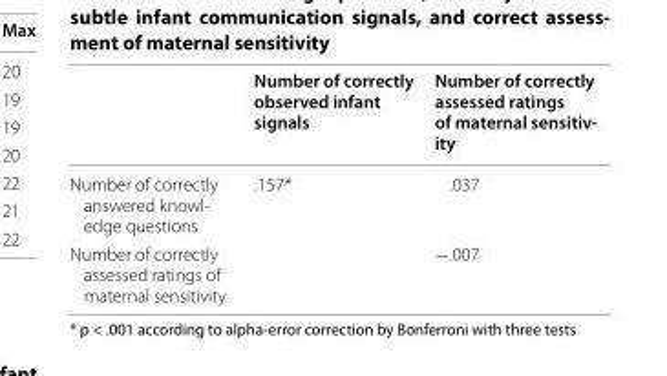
<table><thead><tr><td></td><td>Number of correctly observed infant signals</td><td>Number of correctly assessed ratings of maternal sensitiv‑ ity</td></tr></thead><tbody><tr><td>Number of correctly answered knowl- edge questions</td><td>.157*</td><td>.037</td></tr><tr><td>Number of correctly assessed ratings of maternal sensitivity</td><td></td><td>−.007</td></tr></tbody></table>